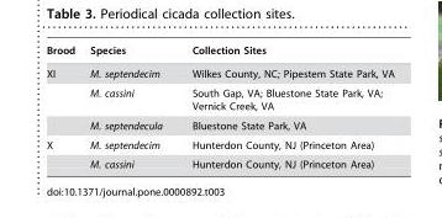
<table><thead><tr><td>Brood</td><td>Species</td><td>Collection Sites</td></tr></thead><tbody><tr><td rowspan="3">XI</td><td>M. septendecim</td><td>Wilkes County, NC; Pipestem State Park, VA</td></tr><tr><td>M. cassini</td><td>South Gap, VA; Bluestone State Park, VA; Vernick Creek, VA</td></tr><tr><td>M. septendecula</td><td>Bluestone State Park, VA</td></tr><tr><td rowspan="2">X</td><td>M. septendecim</td><td>Hunterdon County, NJ (Princeton Area)</td></tr><tr><td>M. cassini</td><td>Hunterdon County, NJ (Princeton Area)</td></tr></tbody></table>